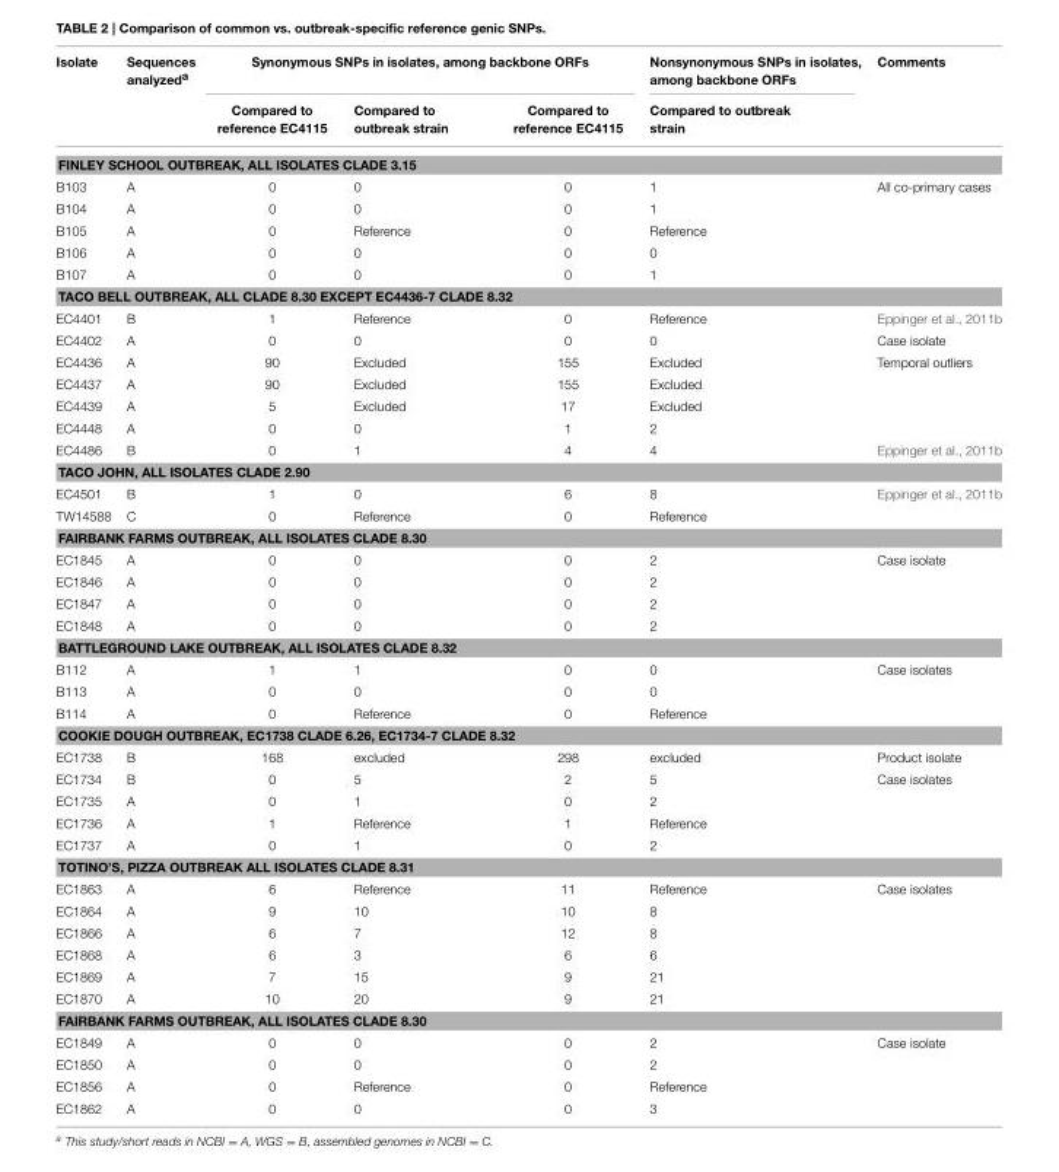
<table><thead><tr><td rowspan="2">Isolate</td><td rowspan="2">Sequences analyzed<sup>a</sup></td><td colspan="3">Synonymous SNPs in isolates, among backbone ORFs</td><td rowspan="2">Nonsynonymous SNPs in isolates, among backbone ORFs Compared to outbreak strain</td><td rowspan="2">Comments</td></tr><tr><td>Compared to reference EC4115</td><td>Compared to outbreak strain</td><td>Compared to reference EC4115</td></tr></thead><tbody><tr><td colspan="7">FINLEY SCHOOL OUTBREAK, ALL ISOLATES CLADE 3.15</td></tr><tr><td>B103</td><td>A</td><td>0</td><td>0</td><td>0</td><td>1</td><td>All co-primary cases</td></tr><tr><td>B104</td><td>A</td><td>0</td><td>0</td><td>0</td><td>1</td><td></td></tr><tr><td>B105</td><td>A</td><td>0</td><td>Reference</td><td>0</td><td>Reference</td><td></td></tr><tr><td>B106</td><td>A</td><td>0</td><td>0</td><td>0</td><td>0</td><td></td></tr><tr><td>B107</td><td>A</td><td>0</td><td>0</td><td>0</td><td>1</td><td></td></tr><tr><td colspan="7">TACO BELL OUTBREAK, ALL CLADE 8.30 EXCEPT EC4436-7 CLADE 8.32</td></tr><tr><td>EC4401</td><td>B</td><td>1</td><td>Reference</td><td>0</td><td>Reference</td><td>Eppinger et al., 2011b</td></tr><tr><td>EC4402</td><td>A</td><td>0</td><td>0</td><td>0</td><td>0</td><td>Case isolate</td></tr><tr><td>EC4436</td><td>A</td><td>90</td><td>Excluded</td><td>155</td><td>Excluded</td><td>Temporal outliers</td></tr><tr><td>EC4437</td><td>A</td><td>90</td><td>Excluded</td><td>155</td><td>Excluded</td><td></td></tr><tr><td>EC4439</td><td>A</td><td>5</td><td>Excluded</td><td>17</td><td>Excluded</td><td></td></tr><tr><td>EC4448</td><td>A</td><td>0</td><td>0</td><td>1</td><td>2</td><td></td></tr><tr><td>EC4486</td><td>B</td><td>0</td><td>1</td><td>4</td><td>4</td><td>Eppinger et al., 2011b</td></tr><tr><td colspan="7">TACO JOHN, ALL ISOLATES CLADE 2.90</td></tr><tr><td>EC4501</td><td>B</td><td>1</td><td>0</td><td>6</td><td>8</td><td>Eppinger et al., 2011b</td></tr><tr><td>TW14588</td><td>C</td><td>0</td><td>Reference</td><td>0</td><td>Reference</td><td></td></tr><tr><td colspan="7">FAIRBANK FARMS OUTBREAK, ALL ISOLATES CLADE 8.30</td></tr><tr><td>EC1845</td><td>A</td><td>0</td><td>0</td><td>0</td><td>2</td><td>Case isolate</td></tr><tr><td>EC1846</td><td>A</td><td>0</td><td>0</td><td>0</td><td>2</td><td></td></tr><tr><td>EC1847</td><td>A</td><td>0</td><td>0</td><td>0</td><td>2</td><td></td></tr><tr><td>EC1848</td><td>A</td><td>0</td><td>0</td><td>0</td><td>2</td><td></td></tr><tr><td colspan="7">BATTLEGROUND LAKE OUTBREAK, ALL ISOLATES CLADE 8.32</td></tr><tr><td>B112</td><td>A</td><td>1</td><td>1</td><td>0</td><td>0</td><td>Case isolates</td></tr><tr><td>B113</td><td>A</td><td>0</td><td>0</td><td>0</td><td>0</td><td></td></tr><tr><td>B114</td><td>A</td><td>0</td><td>Reference</td><td>0</td><td>Reference</td><td></td></tr><tr><td colspan="7">COOKIE DOUGH OUTBREAK, EC1738 CLADE 6.26, EC1734-7 CLADE 8.32</td></tr><tr><td>EC1738</td><td>B</td><td>168</td><td>excluded</td><td>298</td><td>excluded</td><td>Product isolate</td></tr><tr><td>EC1734</td><td>B</td><td>0</td><td>5</td><td>2</td><td>5</td><td>Case isolates</td></tr><tr><td>EC1735</td><td>A</td><td>0</td><td>1</td><td>0</td><td>2</td><td></td></tr><tr><td>EC1736</td><td>A</td><td>1</td><td>Reference</td><td>1</td><td>Reference</td><td></td></tr><tr><td>EC1737</td><td>A</td><td>0</td><td>1</td><td>0</td><td>2</td><td></td></tr><tr><td colspan="7">TOTINO’S, PIZZA OUTBREAK ALL ISOLATES CLADE 8.31</td></tr><tr><td>EC1863</td><td>A</td><td>6</td><td>Reference</td><td>11</td><td>Reference</td><td>Case isolates</td></tr><tr><td>EC1864</td><td>A</td><td>9</td><td>10</td><td>10</td><td>8</td><td></td></tr><tr><td>EC1866</td><td>A</td><td>6</td><td>7</td><td>12</td><td>8</td><td></td></tr><tr><td>EC1868</td><td>A</td><td>6</td><td>3</td><td>6</td><td>6</td><td></td></tr><tr><td>EC1869</td><td>A</td><td>7</td><td>15</td><td>9</td><td>21</td><td></td></tr><tr><td>EC1870</td><td>A</td><td>10</td><td>20</td><td>9</td><td>21</td><td></td></tr><tr><td colspan="7">FAIRBANK FARMS OUTBREAK, ALL ISOLATES CLADE 8.30</td></tr><tr><td>EC1849</td><td>A</td><td>0</td><td>0</td><td>0</td><td>2</td><td>Case isolate</td></tr><tr><td>EC1850</td><td>A</td><td>0</td><td>0</td><td>0</td><td>2</td><td></td></tr><tr><td>EC1856</td><td>A</td><td>0</td><td>Reference</td><td>0</td><td>Reference</td><td></td></tr><tr><td>EC1862</td><td>A</td><td>0</td><td>0</td><td>0</td><td>3</td><td></td></tr></tbody></table>